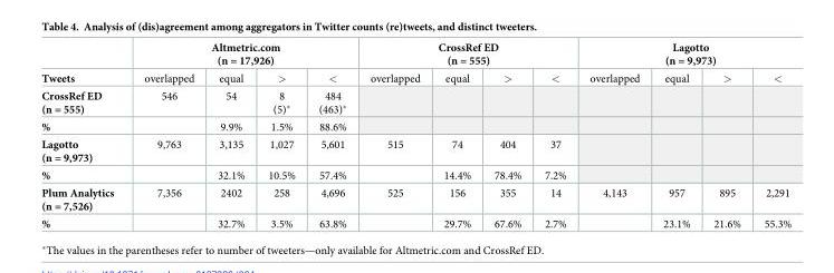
<table><thead><tr><td rowspan="2">Tweets</td><td colspan="4">Altmetric.com (n = 17,926)</td><td colspan="4">CrossRef ED (n = 555)</td><td colspan="4">Lagotto (n = 9,973)</td></tr><tr><td>overlapped</td><td>equal</td><td>&gt;</td><td>&lt;</td><td>overlapped</td><td>equal</td><td>&gt;</td><td>&lt;</td><td>overlapped</td><td>equal</td><td>&gt;</td><td>&lt;</td></tr></thead><tbody><tr><td>CrossRef ED (n = 555)</td><td>546</td><td>54</td><td>8 (5)*</td><td>484 (463)*</td><td></td><td></td><td></td><td></td><td></td><td></td><td></td><td></td></tr><tr><td>%</td><td></td><td>9.9%</td><td>1.5%</td><td>88.6%</td><td></td><td></td><td></td><td></td><td></td><td></td><td></td><td></td></tr><tr><td>Lagotto (n = 9,973)</td><td>9,763</td><td>3,135</td><td>1,027</td><td>5,601</td><td>515</td><td>74</td><td>404</td><td>37</td><td></td><td></td><td></td><td></td></tr><tr><td>%</td><td></td><td>32.1%</td><td>10.5%</td><td>57.4%</td><td></td><td>14.4%</td><td>78.4%</td><td>7.2%</td><td></td><td></td><td></td><td></td></tr><tr><td>Plum Analytics (n = 7,526)</td><td>7,356</td><td>2402</td><td>258</td><td>4,696</td><td>525</td><td>156</td><td>355</td><td>14</td><td>4,143</td><td>957</td><td>895</td><td>2,291</td></tr><tr><td>%</td><td></td><td>32.7%</td><td>3.5%</td><td>63.8%</td><td></td><td>29.7%</td><td>67.6%</td><td>2.7%</td><td></td><td>23.1%</td><td>21.6%</td><td>55.3%</td></tr></tbody></table>